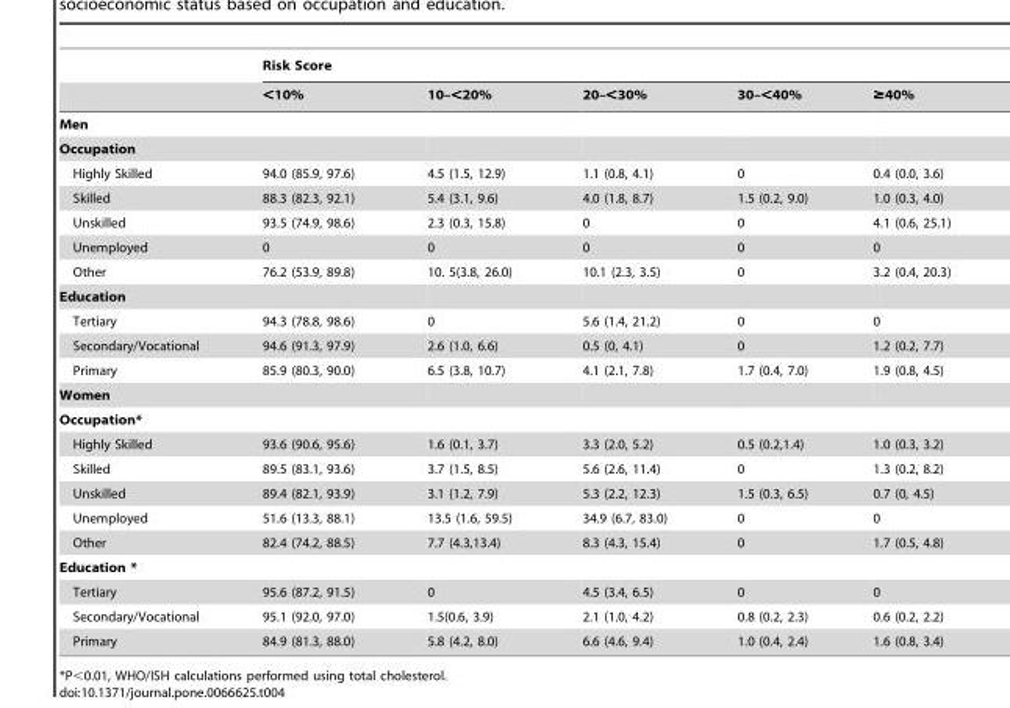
<table><thead><tr><td rowspan="2"></td><td colspan="5">Risk Score</td></tr><tr><td>&lt;10%</td><td>10–&lt;20%</td><td>20–&lt;30%</td><td>30–&lt;40%</td><td>≥40%</td></tr></thead><tbody><tr><td colspan="6">Men</td></tr><tr><td colspan="6">Occupation</td></tr><tr><td>Highly Skilled</td><td>94.0 (85.9, 97.6)</td><td>4.5 (1.5, 12.9)</td><td>1.1 (0.8, 4.1)</td><td>0</td><td>0.4 (0.0, 3.6)</td></tr><tr><td>Skilled</td><td>88.3 (82.3, 92.1)</td><td>5.4 (3.1, 9.6)</td><td>4.0 (1.8, 8.7)</td><td>1.5 (0.2, 9.0)</td><td>1.0 (0.3, 4.0)</td></tr><tr><td>Unskilled</td><td>93.5 (74.9, 98.6)</td><td>2.3 (0.3, 15.8)</td><td>0</td><td>0</td><td>4.1 (0.6, 25.1)</td></tr><tr><td>Unemployed</td><td>0</td><td>0</td><td>0</td><td>0</td><td>0</td></tr><tr><td>Other</td><td>76.2 (53.9, 89.8)</td><td>10. 5(3.8, 26.0)</td><td>10.1 (2.3, 3.5)</td><td>0</td><td>3.2 (0.4, 20.3)</td></tr><tr><td colspan="6">Education</td></tr><tr><td>Tertiary</td><td>94.3 (78.8, 98.6)</td><td>0</td><td>5.6 (1.4, 21.2)</td><td>0</td><td>0</td></tr><tr><td>Secondary/Vocational</td><td>94.6 (91.3, 97.9)</td><td>2.6 (1.0, 6.6)</td><td>0.5 (0, 4.1)</td><td>0</td><td>1.2 (0.2, 7.7)</td></tr><tr><td>Primary</td><td>85.9 (80.3, 90.0)</td><td>6.5 (3.8, 10.7)</td><td>4.1 (2.1, 7.8)</td><td>1.7 (0.4, 7.0)</td><td>1.9 (0.8, 4.5)</td></tr><tr><td colspan="6">Women</td></tr><tr><td colspan="6">Occupation*</td></tr><tr><td>Highly Skilled</td><td>93.6 (90.6, 95.6)</td><td>1.6 (0.1, 3.7)</td><td>3.3 (2.0, 5.2)</td><td>0.5 (0.2,1.4)</td><td>1.0 (0.3, 3.2)</td></tr><tr><td>Skilled</td><td>89.5 (83.1, 93.6)</td><td>3.7 (1.5, 8.5)</td><td>5.6 (2.6, 11.4)</td><td>0</td><td>1.3 (0.2, 8.2)</td></tr><tr><td>Unskilled</td><td>89.4 (82.1, 93.9)</td><td>3.1 (1.2, 7.9)</td><td>5.3 (2.2, 12.3)</td><td>1.5 (0.3, 6.5)</td><td>0.7 (0, 4.5)</td></tr><tr><td>Unemployed</td><td>51.6 (13.3, 88.1)</td><td>13.5 (1.6, 59.5)</td><td>34.9 (6.7, 83.0)</td><td>0</td><td>0</td></tr><tr><td>Other</td><td>82.4 (74.2, 88.5)</td><td>7.7 (4.3,13.4)</td><td>8.3 (4.3, 15.4)</td><td>0</td><td>1.7 (0.5, 4.8)</td></tr><tr><td colspan="6">Education *</td></tr><tr><td>Tertiary</td><td>95.6 (87.2, 91.5)</td><td>0</td><td>4.5 (3.4, 6.5)</td><td>0</td><td>0</td></tr><tr><td>Secondary/Vocational</td><td>95.1 (92.0, 97.0)</td><td>1.5(0.6, 3.9)</td><td>2.1 (1.0, 4.2)</td><td>0.8 (0.2, 2.3)</td><td>0.6 (0.2, 2.2)</td></tr><tr><td>Primary</td><td>84.9 (81.3, 88.0)</td><td>5.8 (4.2, 8.0)</td><td>6.6 (4.6, 9.4)</td><td>1.0 (0.4, 2.4)</td><td>1.6 (0.8, 3.4)</td></tr></tbody></table>